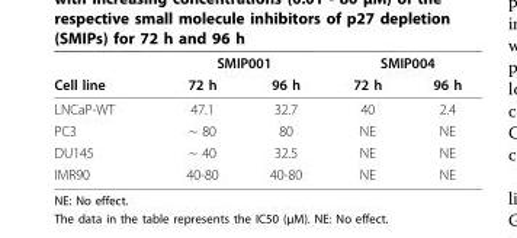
<table><thead><tr><td rowspan="2">Cell line</td><td colspan="2">SMIP001</td><td colspan="2">SMIP004</td></tr><tr><td>72 h</td><td>96 h</td><td>72 h</td><td>96 h</td></tr></thead><tbody><tr><td>LNCaP-WT</td><td>47.1</td><td>32.7</td><td>40</td><td>2.4</td></tr><tr><td>PC3</td><td>~ 80</td><td>80</td><td>NE</td><td>NE</td></tr><tr><td>DU145</td><td>~ 40</td><td>32.5</td><td>NE</td><td>NE</td></tr><tr><td>IMR90</td><td>40-80</td><td>40-80</td><td>NE</td><td>NE</td></tr></tbody></table>